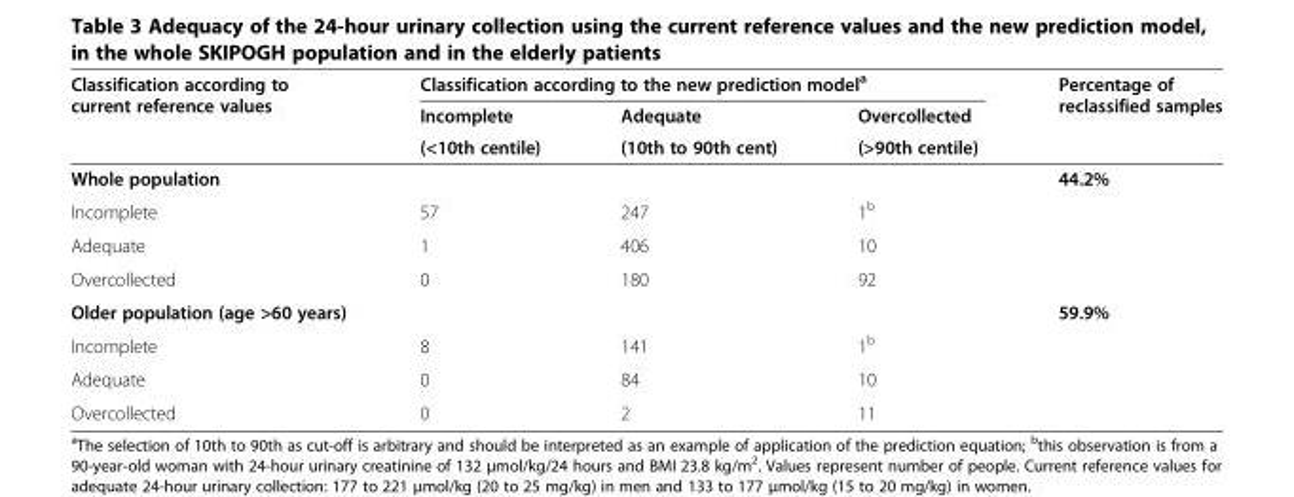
<table><thead><tr><td rowspan="3">Classification according to current reference values</td><td colspan="3">Classification according to the new prediction model<sup>a</sup></td><td rowspan="3">Percentage of reclassified samples</td></tr><tr><td rowspan="2">Incomplete (&lt;10th centile)</td><td rowspan="2">Adequate (10th to 90th cent)</td><td rowspan="2">Overcollected (&gt;90th centile)</td></tr><tr></tr></thead><tbody><tr><td>Whole population</td><td></td><td></td><td></td><td>44.2%</td></tr><tr><td>Incomplete</td><td>57</td><td>247</td><td>1<sup>b</sup></td><td></td></tr><tr><td>Adequate</td><td>1</td><td>406</td><td>10</td><td></td></tr><tr><td>Overcollected</td><td>0</td><td>180</td><td>92</td><td></td></tr><tr><td>Older population (age &gt;60 years)</td><td></td><td></td><td></td><td>59.9%</td></tr><tr><td>Incomplete</td><td>8</td><td>141</td><td>1<sup>b</sup></td><td></td></tr><tr><td>Adequate</td><td>0</td><td>84</td><td>10</td><td></td></tr><tr><td>Overcollected</td><td>0</td><td>2</td><td>11</td><td></td></tr></tbody></table>